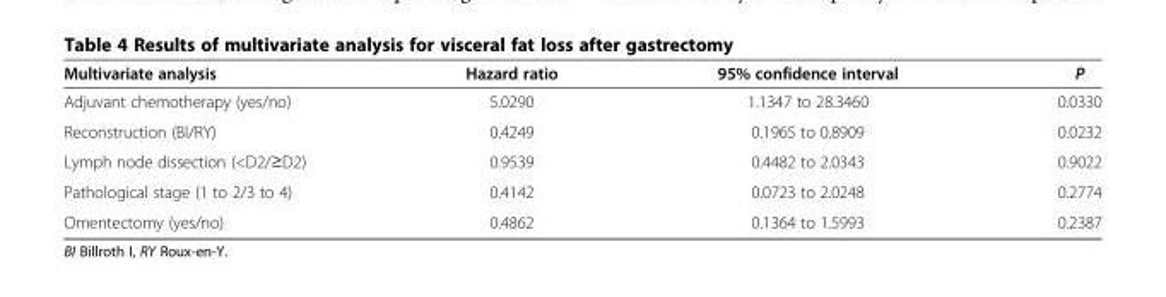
<table><thead><tr><td>Multivariate analysis</td><td>Hazard ratio</td><td>95% confidence interval</td><td>P</td></tr></thead><tbody><tr><td>Adjuvant chemotherapy (yes/no)</td><td>5.0290</td><td>1.1347 to 28.3460</td><td>0.0330</td></tr><tr><td>Reconstruction (BI/RY)</td><td>0.4249</td><td>0.1965 to 0.8909</td><td>0.0232</td></tr><tr><td>Lymph node dissection (&lt;D2/≥D2)</td><td>0.9539</td><td>0.4482 to 2.0343</td><td>0.9022</td></tr><tr><td>Pathological stage (1 to 2/3 to 4)</td><td>0.4142</td><td>0.0723 to 2.0248</td><td>0.2774</td></tr><tr><td>Omentectomy (yes/no)</td><td>0.4862</td><td>0.1364 to 1.5993</td><td>0.2387</td></tr></tbody></table>